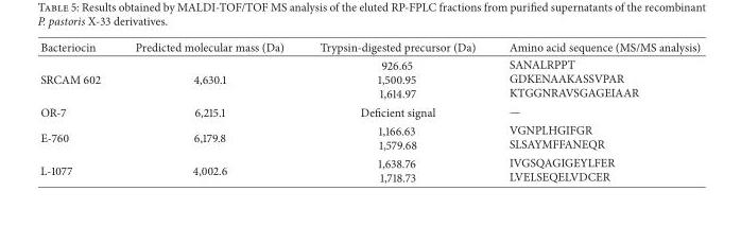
<table><thead><tr><td>Bacteriocin</td><td>Predicted molecular mass (Da)</td><td>Trypsin-digested precursor (Da)</td><td>Amino acid sequence (MS/MS analysis)</td></tr></thead><tbody><tr><td>SRCAM 602</td><td>4,630.1</td><td>926.65 1,500.95 1,614.97</td><td>SANALRPPT GDKENAAKASSVPAR KTGGNRAVSGAGEIAAR</td></tr><tr><td>OR-7</td><td>6,215.1</td><td>Deficient signal</td><td>—</td></tr><tr><td>E-760</td><td>6,179.8</td><td>1,166.63 1,579.68</td><td>VGNPLHGIFGR SLSAYMFFANEQR</td></tr><tr><td>L-1077</td><td>4,002.6</td><td>1,638.76 1,718.73</td><td>IVGSQAGIGEYLFER LVELSEQELVDCER</td></tr></tbody></table>